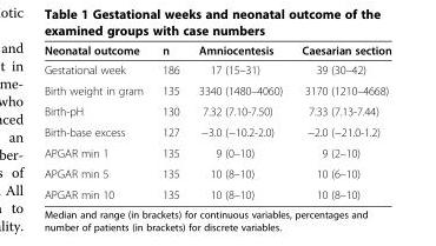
<table><thead><tr><td>Neonatal outcome</td><td>n</td><td>Amniocentesis</td><td>Caesarian section</td></tr></thead><tbody><tr><td>Gestational week</td><td>186</td><td>17 (15–31)</td><td>39 (30–42)</td></tr><tr><td>Birth weight in gram</td><td>135</td><td>3340 (1480–4060)</td><td>3170 (1210–4668)</td></tr><tr><td>Birth-pH</td><td>130</td><td>7.32 (7.10-7.50)</td><td>7.33 (7.13-7.44)</td></tr><tr><td>Birth-base excess</td><td>127</td><td>−3.0 (−10.2-2.0)</td><td>−2.0 (−21.0-1.2)</td></tr><tr><td>APGAR min 1</td><td>135</td><td>9 (0–10)</td><td>9 (2–10)</td></tr><tr><td>APGAR min 5</td><td>135</td><td>10 (8–10)</td><td>10 (6–10)</td></tr><tr><td>APGAR min 10</td><td>135</td><td>10 (8–10)</td><td>10 (8–10)</td></tr></tbody></table>